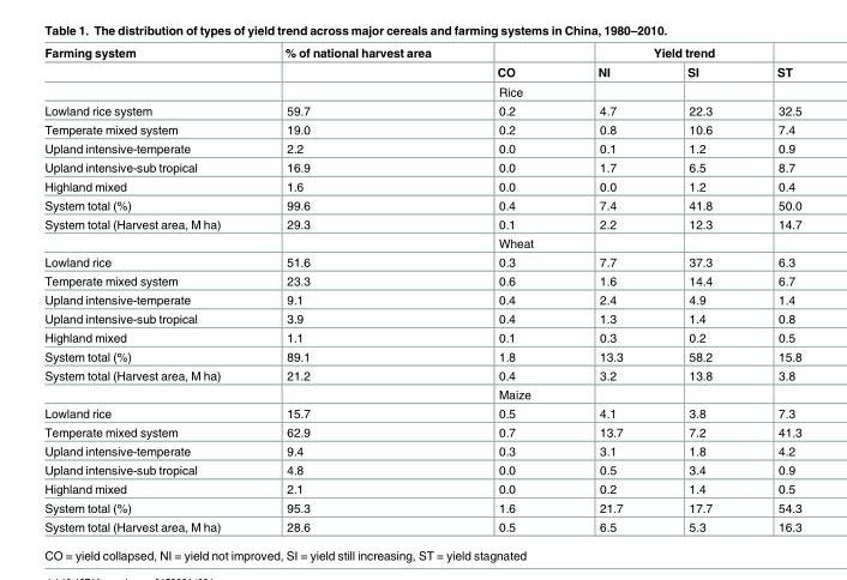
<table><thead><tr><td rowspan="2">Farming system</td><td rowspan="2">% of national harvest area</td><td rowspan="2">CO</td><td colspan="2">Yield trend</td><td rowspan="2">ST</td></tr><tr><td>NI</td><td>SI</td></tr></thead><tbody><tr><td></td><td></td><td>Rice</td><td></td><td></td><td></td></tr><tr><td>Lowland rice system</td><td>59.7</td><td>0.2</td><td>4.7</td><td>22.3</td><td>32.5</td></tr><tr><td>Temperate mixed system</td><td>19.0</td><td>0.2</td><td>0.8</td><td>10.6</td><td>7.4</td></tr><tr><td>Upland intensive-temperate</td><td>2.2</td><td>0.0</td><td>0.1</td><td>1.2</td><td>0.9</td></tr><tr><td>Upland intensive-sub tropical</td><td>16.9</td><td>0.0</td><td>1.7</td><td>6.5</td><td>8.7</td></tr><tr><td>Highland mixed</td><td>1.6</td><td>0.0</td><td>0.0</td><td>1.2</td><td>0.4</td></tr><tr><td>System total (%)</td><td>99.6</td><td>0.4</td><td>7.4</td><td>41.8</td><td>50.0</td></tr><tr><td rowspan="2">System total (Harvest area, M ha)</td><td>29.3</td><td>0.1</td><td>2.2</td><td>12.3</td><td>14.7</td></tr><tr><td></td><td>Wheat</td><td></td><td></td><td></td></tr><tr><td>Lowland rice</td><td>51.6</td><td>0.3</td><td>7.7</td><td>37.3</td><td>6.3</td></tr><tr><td>Temperate mixed system</td><td>23.3</td><td>0.6</td><td>1.6</td><td>14.4</td><td>6.7</td></tr><tr><td>Upland intensive-temperate</td><td>9.1</td><td>0.4</td><td>2.4</td><td>4.9</td><td>1.4</td></tr><tr><td>Upland intensive-sub tropical</td><td>3.9</td><td>0.4</td><td>1.3</td><td>1.4</td><td>0.8</td></tr><tr><td>Highland mixed</td><td>1.1</td><td>0.1</td><td>0.3</td><td>0.2</td><td>0.5</td></tr><tr><td>System total (%)</td><td>89.1</td><td>1.8</td><td>13.3</td><td>58.2</td><td>15.8</td></tr><tr><td rowspan="2">System total (Harvest area, M ha)</td><td>21.2</td><td>0.4</td><td>3.2</td><td>13.8</td><td>3.8</td></tr><tr><td></td><td>Maize</td><td></td><td></td><td></td></tr><tr><td>Lowland rice</td><td>15.7</td><td>0.5</td><td>4.1</td><td>3.8</td><td>7.3</td></tr><tr><td>Temperate mixed system</td><td>62.9</td><td>0.7</td><td>13.7</td><td>7.2</td><td>41.3</td></tr><tr><td>Upland intensive-temperate</td><td>9.4</td><td>0.3</td><td>3.1</td><td>1.8</td><td>4.2</td></tr><tr><td>Upland intensive-sub tropical</td><td>4.8</td><td>0.0</td><td>0.5</td><td>3.4</td><td>0.9</td></tr><tr><td>Highland mixed</td><td>2.1</td><td>0.0</td><td>0.2</td><td>1.4</td><td>0.5</td></tr><tr><td>System total (%)</td><td>95.3</td><td>1.6</td><td>21.7</td><td>17.7</td><td>54.3</td></tr><tr><td>System total (Harvest area, M ha)</td><td>28.6</td><td>0.5</td><td>6.5</td><td>5.3</td><td>16.3</td></tr></tbody></table>